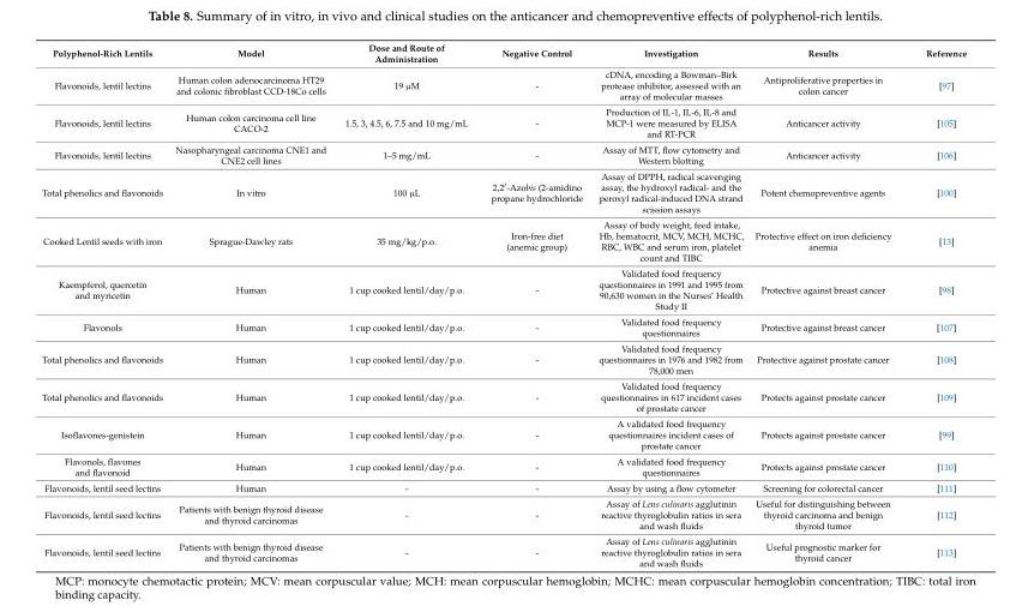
<table><thead><tr><td>Polyphenol-Rich Lentils</td><td>Model</td><td>Dose and Route of Administration</td><td>Negative Control</td><td>Investigation</td><td>Results</td><td>Reference</td></tr></thead><tbody><tr><td>Flavonoids, lentil lectins</td><td>Human colon adenocarcinoma HT29 and colonic fibroblast CCD-18Co cells</td><td>19 µM</td><td>-</td><td>cDNA, encoding a Bowman–Birk protease inhibitor, assessed with an array of molecular masses</td><td>Antiproliferative properties in colon cancer</td><td>[97]</td></tr><tr><td>Flavonoids, lentil lectins</td><td>Human colon carcinoma cell line CACO-2</td><td>1.5, 3, 4.5, 6, 7.5 and 10 mg/mL</td><td>-</td><td>Production of IL-1, IL-6, IL-8 and MCP-1 were measured by ELISA and RT-PCR</td><td>Anticancer activity</td><td>[105]</td></tr><tr><td>Flavonoids, lentil lectins</td><td>Nasopharyngeal carcinoma CNE1 and CNE2 cell lines</td><td>1–5 mg/mL</td><td>-</td><td>Assay of MTT, flow cytometry and Western blotting</td><td>Anticancer activity</td><td>[106]</td></tr><tr><td>Total phenolics and flavonoids</td><td>In vitro</td><td>100 µL</td><td>2,2′-Azobis (2-amidino propane hydrochloride</td><td>Assay of DPPH, radical scavenging assay, the hydroxyl radical- and the peroxyl radical-induced DNA strand scission assays</td><td>Potent chemopreventive agents</td><td>[100]</td></tr><tr><td>Cooked Lentil seeds with iron</td><td>Sprague-Dawley rats</td><td>35 mg/kg/p.o.</td><td>Iron-free diet (anemic group)</td><td>Assay of body weight, feed intake, Hb, hematocrit, MCV, MCH, MCHC, RBC, WBC and serum iron, platelet count and TIBC</td><td>Protective effect on iron deficiency anemia</td><td>[13]</td></tr><tr><td>Kaempferol, quercetin and myricetin</td><td>Human</td><td>1 cup cooked lentil/day/p.o.</td><td>-</td><td>Validated food frequency questionnaires in 1991 and 1995 from 90,630 women in the Nurses’ Health Study II</td><td>Protective against breast cancer</td><td>[98]</td></tr><tr><td>Flavonols</td><td>Human</td><td>1 cup cooked lentil/day/p.o.</td><td>-</td><td>Validated food frequency questionnaires</td><td>Protective against breast cancer</td><td>[107]</td></tr><tr><td>Total phenolics and flavonoids</td><td>Human</td><td>1 cup cooked lentil/day/p.o.</td><td>-</td><td>Validated food frequency questionnaires in 1976 and 1982 from 78,000 men</td><td>Protective against prostate cancer</td><td>[108]</td></tr><tr><td>Total phenolics and flavonoids</td><td>Human</td><td>1 cup cooked lentil/day/p.o.</td><td>-</td><td>Validated food frequency questionnaires in 617 incident cases of prostate cancer</td><td>Protects against prostate cancer</td><td>[109]</td></tr><tr><td>Isoflavones-genistein</td><td>Human</td><td>1 cup cooked lentil/day/p.o.</td><td>-</td><td>A validated food frequency questionnaires incident cases of prostate cancer</td><td>Protects against prostate cancer</td><td>[99]</td></tr><tr><td>Flavonols, flavones and flavonoid</td><td>Human</td><td>1 cup cooked lentil/day/p.o.</td><td>-</td><td>A validated food frequency questionnaires</td><td>Protects against prostate cancer</td><td>[110]</td></tr><tr><td>Flavonoids, lentil seed lectins</td><td>Human</td><td>-</td><td>-</td><td>Assay by using a flow cytometer</td><td>Screening for colorectal cancer</td><td>[111]</td></tr><tr><td>Flavonoids, lentil seed lectins</td><td>Patients with benign thyroid disease and thyroid carcinomas</td><td>-</td><td>-</td><td>Assay of Lens culinaris agglutinin reactive thyroglobulin ratios in sera and wash fluids</td><td>Useful for distinguishing between thyroid carcinoma and benign thyroid tumor</td><td>[112]</td></tr><tr><td>Flavonoids, lentil seed lectins</td><td>Patients with benign thyroid disease and thyroid carcinomas</td><td>-</td><td>-</td><td>Assay of Lens culinaris agglutinin reactive thyroglobulin ratios in sera and wash fluids</td><td>Useful prognostic marker for thyroid cancer</td><td>[113]</td></tr></tbody></table>